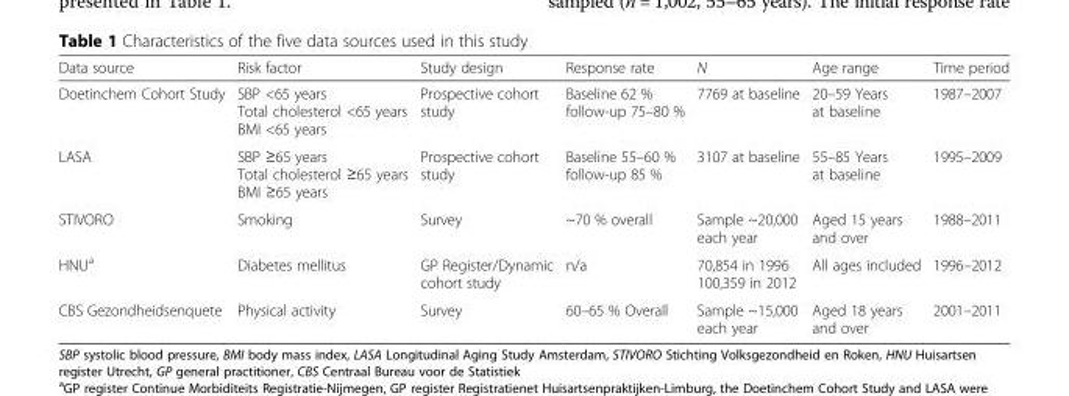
<table><thead><tr><td>Data source</td><td>Risk factor</td><td>Study design</td><td>Response rate</td><td>N</td><td>Age range</td><td>Time period</td></tr></thead><tbody><tr><td>Doetinchem Cohort Study</td><td>SBP &lt;65 years Total cholesterol &lt;65 years BMI &lt;65 years</td><td>Prospective cohort study</td><td>Baseline 62 % follow-up 75–80 %</td><td>7769 at baseline</td><td>20–59 Years at baseline</td><td>1987–2007</td></tr><tr><td>LASA</td><td>SBP ≥65 years Total cholesterol ≥65 years BMI ≥65 years</td><td>Prospective cohort study</td><td>Baseline 55–60 % follow-up 85 %</td><td>3107 at baseline</td><td>55–85 Years at baseline</td><td>1995–2009</td></tr><tr><td>STIVORO</td><td>Smoking</td><td>Survey</td><td>~70 % overall</td><td>Sample ~20,000 each year</td><td>Aged 15 years and over</td><td>1988–2011</td></tr><tr><td>HNU<sup>a</sup></td><td>Diabetes mellitus</td><td>GP Register/Dynamic cohort study</td><td>n/a</td><td>70,854 in 1996 100,359 in 2012</td><td>All ages included</td><td>1996–2012</td></tr><tr><td>CBS Gezondheidsenquete</td><td>Physical activity</td><td>Survey</td><td>60–65 % Overall</td><td>Sample ~15,000 each year</td><td>Aged 18 years and over</td><td>2001–2011</td></tr></tbody></table>